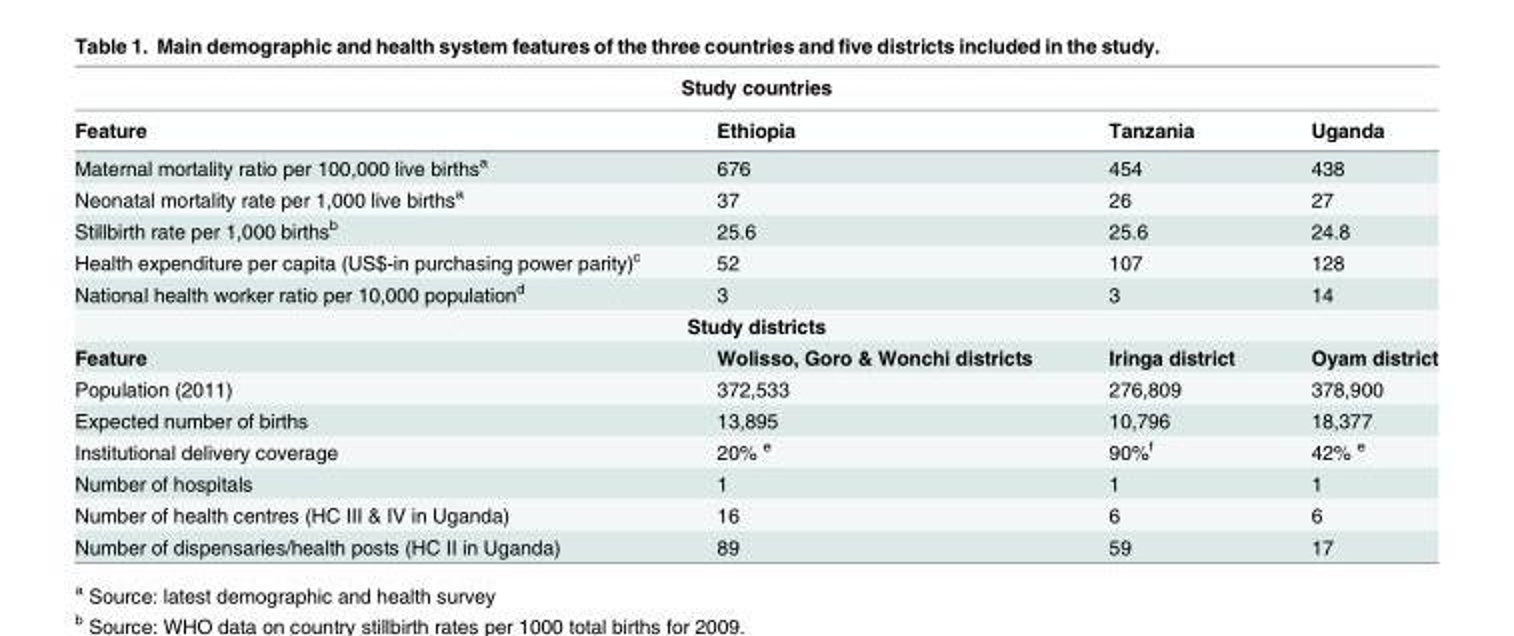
<table><thead><tr><td colspan="4">Study countries</td></tr><tr><td>Feature</td><td>Ethiopia</td><td>Tanzania</td><td>Uganda</td></tr></thead><tbody><tr><td>Maternal mortality ratio per 100,000 live births<sup>a</sup></td><td>676</td><td>454</td><td>438</td></tr><tr><td>Neonatal mortality rate per 1,000 live births<sup>a</sup></td><td>37</td><td>26</td><td>27</td></tr><tr><td>Stillbirth rate per 1,000 births<sup>b</sup></td><td>25.6</td><td>25.6</td><td>24.8</td></tr><tr><td>Health expenditure per capita (US$-in purchasing power parity)<sup>c</sup></td><td>52</td><td>107</td><td>128</td></tr><tr><td>National health worker ratio per 10,000 population<sup>d</sup></td><td>3</td><td>3</td><td>14</td></tr><tr><td colspan="4">Study districts</td></tr><tr><td>Feature</td><td>Wolisso, Goro &amp; Wonchi districts</td><td>Iringa district</td><td>Oyam district</td></tr><tr><td>Population (2011)</td><td>372,533</td><td>276,809</td><td>378,900</td></tr><tr><td>Expected number of births</td><td>13,895</td><td>10,796</td><td>18,377</td></tr><tr><td>Institutional delivery coverage</td><td>20% <sup>e</sup></td><td>90%<sup>f</sup></td><td>42% <sup>e</sup></td></tr><tr><td>Number of hospitals</td><td>1</td><td>1</td><td>1</td></tr><tr><td>Number of health centres (HC III &amp; IV in Uganda)</td><td>16</td><td>6</td><td>6</td></tr><tr><td>Number of dispensaries/health posts (HC II in Uganda)</td><td>89</td><td>59</td><td>17</td></tr></tbody></table>